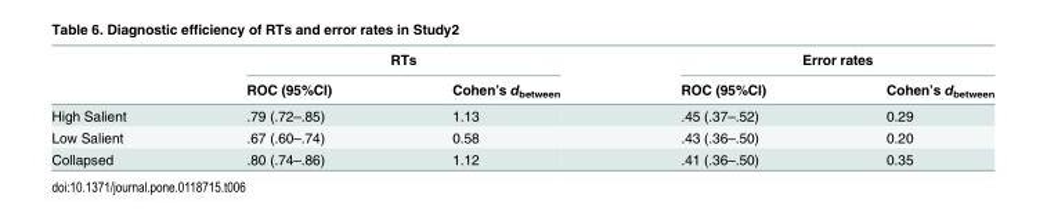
<table><thead><tr><td rowspan="2"></td><td colspan="2">RTs</td><td colspan="2">Error rates</td></tr><tr><td>ROC (95%CI)</td><td>Cohen’s d<sub>between</sub></td><td>ROC (95%CI)</td><td>Cohen’s d<sub>between</sub></td></tr></thead><tbody><tr><td>High Salient</td><td>.79 (.72–.85)</td><td>1.13</td><td>.45 (.37–.52)</td><td>0.29</td></tr><tr><td>Low Salient</td><td>.67 (.60–.74)</td><td>0.58</td><td>.43 (.36–.50)</td><td>0.20</td></tr><tr><td>Collapsed</td><td>.80 (.74–.86)</td><td>1.12</td><td>.41 (.36–.50)</td><td>0.35</td></tr></tbody></table>